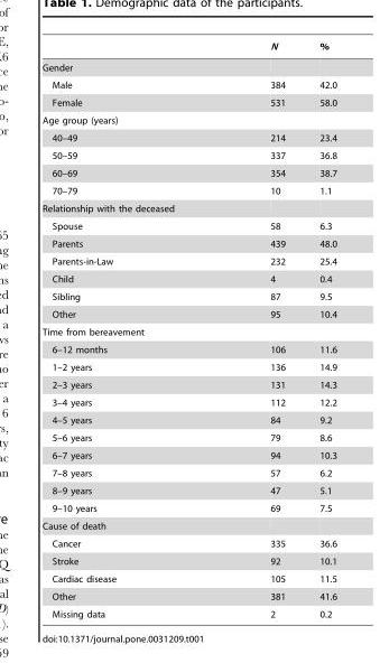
<table><thead><tr><td></td><td>N</td><td>%</td></tr></thead><tbody><tr><td colspan="3">Gender</td></tr><tr><td>Male</td><td>384</td><td>42.0</td></tr><tr><td>Female</td><td>531</td><td>58.0</td></tr><tr><td colspan="3">Age group (years)</td></tr><tr><td>40–49</td><td>214</td><td>23.4</td></tr><tr><td>50–59</td><td>337</td><td>36.8</td></tr><tr><td>60–69</td><td>354</td><td>38.7</td></tr><tr><td>70–79</td><td>10</td><td>1.1</td></tr><tr><td colspan="3">Relationship with the deceased</td></tr><tr><td>Spouse</td><td>58</td><td>6.3</td></tr><tr><td>Parents</td><td>439</td><td>48.0</td></tr><tr><td>Parents-in-Law</td><td>232</td><td>25.4</td></tr><tr><td>Child</td><td>4</td><td>0.4</td></tr><tr><td>Sibling</td><td>87</td><td>9.5</td></tr><tr><td>Other</td><td>95</td><td>10.4</td></tr><tr><td colspan="3">Time from bereavement</td></tr><tr><td>6–12 months</td><td>106</td><td>11.6</td></tr><tr><td>1–2 years</td><td>136</td><td>14.9</td></tr><tr><td>2–3 years</td><td>131</td><td>14.3</td></tr><tr><td>3–4 years</td><td>112</td><td>12.2</td></tr><tr><td>4–5 years</td><td>84</td><td>9.2</td></tr><tr><td>5–6 years</td><td>79</td><td>8.6</td></tr><tr><td>6–7 years</td><td>94</td><td>10.3</td></tr><tr><td>7–8 years</td><td>57</td><td>6.2</td></tr><tr><td>8–9 years</td><td>47</td><td>5.1</td></tr><tr><td>9–10 years</td><td>69</td><td>7.5</td></tr><tr><td colspan="3">Cause of death</td></tr><tr><td>Cancer</td><td>335</td><td>36.6</td></tr><tr><td>Stroke</td><td>92</td><td>10.1</td></tr><tr><td>Cardiac disease</td><td>105</td><td>11.5</td></tr><tr><td>Other</td><td>381</td><td>41.6</td></tr><tr><td>Missing data</td><td>2</td><td>0.2</td></tr></tbody></table>